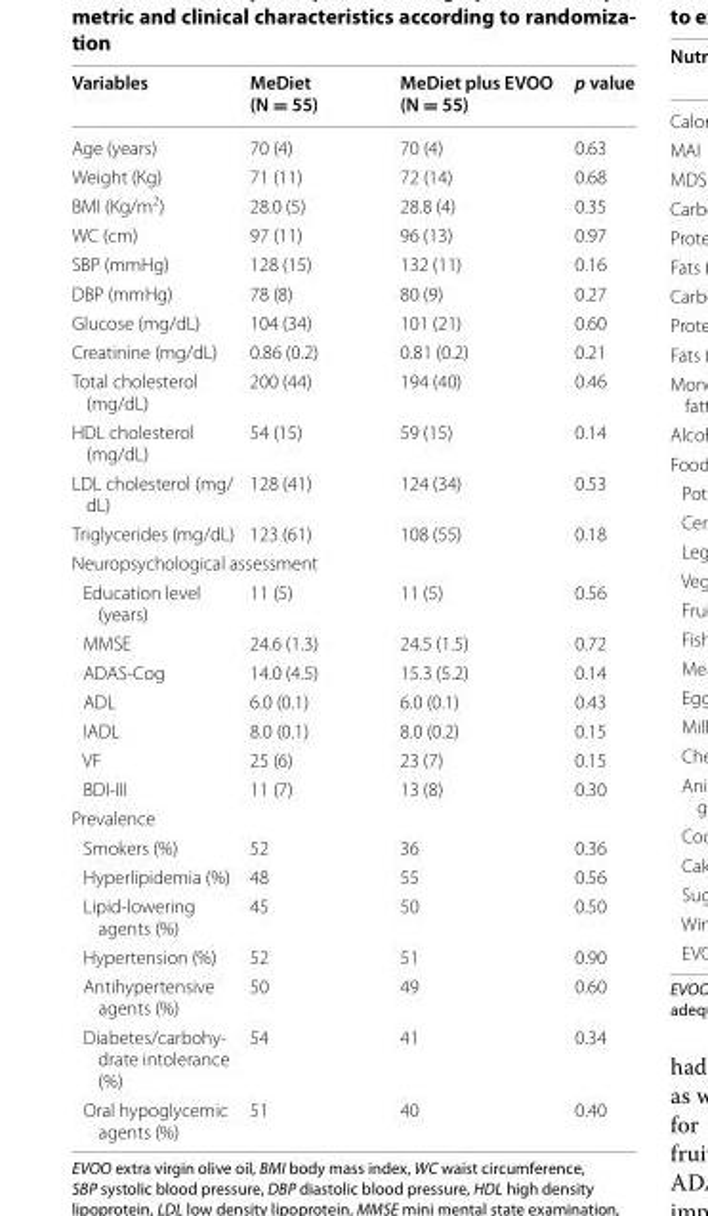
<table><thead><tr><td>Variables</td><td>MeDiet (N = 55)</td><td>MeDiet plus EVOO (N = 55)</td><td>p value</td></tr></thead><tbody><tr><td>Age (years)</td><td>70 (4)</td><td>70 (4)</td><td>0.63</td></tr><tr><td>Weight (Kg)</td><td>71 (11)</td><td>72 (14)</td><td>0.68</td></tr><tr><td>BMI (Kg/m<sup>2</sup>)</td><td>28.0 (5)</td><td>28.8 (4)</td><td>0.35</td></tr><tr><td>WC (cm)</td><td>97 (11)</td><td>96 (13)</td><td>0.97</td></tr><tr><td>SBP (mmHg)</td><td>128 (15)</td><td>132 (11)</td><td>0.16</td></tr><tr><td>DBP (mmHg)</td><td>78 (8)</td><td>80 (9)</td><td>0.27</td></tr><tr><td>Glucose (mg/dL)</td><td>104 (34)</td><td>101 (21)</td><td>0.60</td></tr><tr><td>Creatinine (mg/dL)</td><td>0.86 (0.2)</td><td>0.81 (0.2)</td><td>0.21</td></tr><tr><td>Total cholesterol (mg/dL)</td><td>200 (44)</td><td>194 (40)</td><td>0.46</td></tr><tr><td>HDL cholesterol (mg/dL)</td><td>54 (15)</td><td>59 (15)</td><td>0.14</td></tr><tr><td>LDL cholesterol (mg/ dL)</td><td>128 (41)</td><td>124 (34)</td><td>0.53</td></tr><tr><td>Triglycerides (mg/dL)</td><td>123 (61)</td><td>108 (55)</td><td>0.18</td></tr><tr><td colspan="4">Neuropsychological assessment</td></tr><tr><td>Education level (years)</td><td>11 (5)</td><td>11 (5)</td><td>0.56</td></tr><tr><td>MMSE</td><td>24.6 (1.3)</td><td>24.5 (1.5)</td><td>0.72</td></tr><tr><td>ADAS-Cog</td><td>14.0 (4.5)</td><td>15.3 (5.2)</td><td>0.14</td></tr><tr><td>ADL</td><td>6.0 (0.1)</td><td>6.0 (0.1)</td><td>0.43</td></tr><tr><td>IADL</td><td>8.0 (0.1)</td><td>8.0 (0.2)</td><td>0.15</td></tr><tr><td>VF</td><td>25 (6)</td><td>23 (7)</td><td>0.15</td></tr><tr><td>BDI-III</td><td>11 (7)</td><td>13 (8)</td><td>0.30</td></tr><tr><td colspan="4">Prevalence</td></tr><tr><td>Smokers (%)</td><td>52</td><td>36</td><td>0.36</td></tr><tr><td>Hyperlipidemia (%)</td><td>48</td><td>55</td><td>0.56</td></tr><tr><td>Lipid-lowering agents (%)</td><td>45</td><td>50</td><td>0.50</td></tr><tr><td>Hypertension (%)</td><td>52</td><td>51</td><td>0.90</td></tr><tr><td>Antihypertensive agents (%)</td><td>50</td><td>49</td><td>0.60</td></tr><tr><td>Diabetes/carbohy- drate intolerance (%)</td><td>54</td><td>41</td><td>0.34</td></tr><tr><td>Oral hypoglycemic agents (%)</td><td>51</td><td>40</td><td>0.40</td></tr></tbody></table>